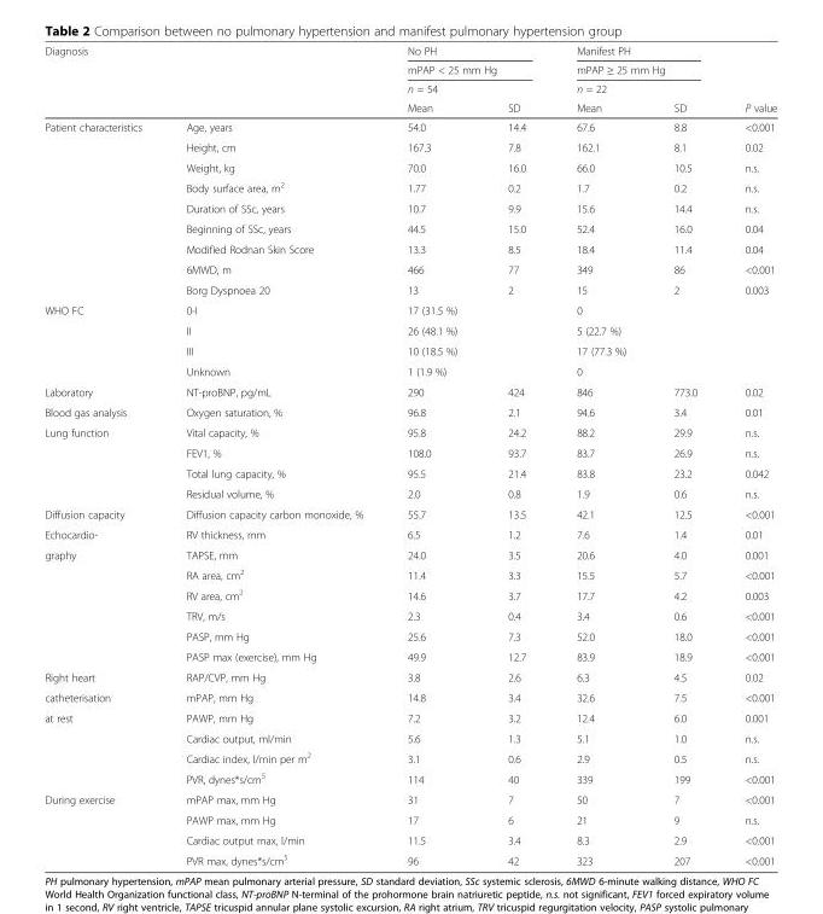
<table><thead><tr><td rowspan="4">Diagnosis</td><td rowspan="4"></td><td rowspan="2" colspan="2">No PH mPAP &lt; 25 mm Hg</td><td rowspan="2" colspan="2">Manifest PH mPAP ≥ 25 mm Hg</td><td rowspan="4">P value</td></tr><tr></tr><tr><td rowspan="2">n = 54 Mean</td><td rowspan="2">SD</td><td rowspan="2">n = 22 Mean</td><td rowspan="2">SD</td></tr><tr></tr></thead><tbody><tr><td rowspan="9">Patient characteristics</td><td>Age, years</td><td>54.0</td><td>14.4</td><td>67.6</td><td>8.8</td><td>&lt;0.001</td></tr><tr><td>Height, cm</td><td>167.3</td><td>7.8</td><td>162.1</td><td>8.1</td><td>0.02</td></tr><tr><td>Weight, kg</td><td>70.0</td><td>16.0</td><td>66.0</td><td>10.5</td><td>n.s.</td></tr><tr><td>Body surface area, m<sup>2</sup></td><td>1.77</td><td>0.2</td><td>1.7</td><td>0.2</td><td>n.s.</td></tr><tr><td>Duration of SSc, years</td><td>10.7</td><td>9.9</td><td>15.6</td><td>14.4</td><td>n.s.</td></tr><tr><td>Beginning of SSc, years</td><td>44.5</td><td>15.0</td><td>52.4</td><td>16.0</td><td>0.04</td></tr><tr><td>Modified Rodnan Skin Score</td><td>13.3</td><td>8.5</td><td>18.4</td><td>11.4</td><td>0.04</td></tr><tr><td>6MWD, m</td><td>466</td><td>77</td><td>349</td><td>86</td><td>&lt;0.001</td></tr><tr><td>Borg Dyspnoea 20</td><td>13</td><td>2</td><td>15</td><td>2</td><td>0.003</td></tr><tr><td rowspan="4">WHO FC</td><td>0-I</td><td>17 (31.5 %)</td><td></td><td>0</td><td rowspan="4"></td><td rowspan="4"></td></tr><tr><td>II</td><td>26 (48.1 %)</td><td></td><td>5 (22.7 %)</td></tr><tr><td>III</td><td>10 (18.5 %)</td><td></td><td>17 (77.3 %)</td></tr><tr><td>Unknown</td><td>1 (1.9 %)</td><td></td><td>0</td></tr><tr><td>Laboratory</td><td>NT-proBNP, pg/mL</td><td>290</td><td>424</td><td>846</td><td>773.0</td><td>0.02</td></tr><tr><td>Blood gas analysis</td><td>Oxygen saturation, %</td><td>96.8</td><td>2.1</td><td>94.6</td><td>3.4</td><td>0.01</td></tr><tr><td rowspan="4">Lung function</td><td>Vital capacity, %</td><td>95.8</td><td>24.2</td><td>88.2</td><td>29.9</td><td>n.s.</td></tr><tr><td>FEV1, %</td><td>108.0</td><td>93.7</td><td>83.7</td><td>26.9</td><td>n.s.</td></tr><tr><td>Total lung capacity, %</td><td>95.5</td><td>21.4</td><td>83.8</td><td>23.2</td><td>0.042</td></tr><tr><td>Residual volume, %</td><td>2.0</td><td>0.8</td><td>1.9</td><td>0.6</td><td>n.s.</td></tr><tr><td>Diffusion capacity</td><td>Diffusion capacity carbon monoxide, %</td><td>55.7</td><td>13.5</td><td>42.1</td><td>12.5</td><td>&lt;0.001</td></tr><tr><td>Echocardio-</td><td>RV thickness, mm</td><td>6.5</td><td>1.2</td><td>7.6</td><td>1.4</td><td>0.01</td></tr><tr><td rowspan="6">graphy</td><td>TAPSE, mm</td><td>24.0</td><td>3.5</td><td>20.6</td><td>4.0</td><td>0.001</td></tr><tr><td>RA area, cm<sup>2</sup></td><td>11.4</td><td>3.3</td><td>15.5</td><td>5.7</td><td>&lt;0.001</td></tr><tr><td>RV area, cm<sup>2</sup></td><td>14.6</td><td>3.7</td><td>17.7</td><td>4.2</td><td>0.003</td></tr><tr><td>TRV, m/s</td><td>2.3</td><td>0.4</td><td>3.4</td><td>0.6</td><td>&lt;0.001</td></tr><tr><td>PASP, mm Hg</td><td>25.6</td><td>7.3</td><td>52.0</td><td>18.0</td><td>&lt;0.001</td></tr><tr><td>PASP max (exercise), mm Hg</td><td>49.9</td><td>12.7</td><td>83.9</td><td>18.9</td><td>&lt;0.001</td></tr><tr><td>Right heart</td><td>RAP/CVP, mm Hg</td><td>3.8</td><td>2.6</td><td>6.3</td><td>4.5</td><td>0.02</td></tr><tr><td>catheterisation</td><td>mPAP, mm Hg</td><td>14.8</td><td>3.4</td><td>32.6</td><td>7.5</td><td>&lt;0.001</td></tr><tr><td rowspan="4">at rest</td><td>PAWP, mm Hg</td><td>7.2</td><td>3.2</td><td>12.4</td><td>6.0</td><td>0.001</td></tr><tr><td>Cardiac output, ml/min</td><td>5.6</td><td>1.3</td><td>5.1</td><td>1.0</td><td>n.s.</td></tr><tr><td>Cardiac index, l/min per m<sup>2</sup></td><td>3.1</td><td>0.6</td><td>2.9</td><td>0.5</td><td>n.s.</td></tr><tr><td>PVR, dynes*s/cm<sup>5</sup></td><td>114</td><td>40</td><td>339</td><td>199</td><td>&lt;0.001</td></tr><tr><td rowspan="4">During exercise</td><td>mPAP max, mm Hg</td><td>31</td><td>7</td><td>50</td><td>7</td><td>&lt;0.001</td></tr><tr><td>PAWP max, mm Hg</td><td>17</td><td>6</td><td>21</td><td>9</td><td>n.s.</td></tr><tr><td>Cardiac output max, l/min</td><td>11.5</td><td>3.4</td><td>8.3</td><td>2.9</td><td>&lt;0.001</td></tr><tr><td>PVR max, dynes*s/cm<sup>5</sup></td><td>96</td><td>42</td><td>323</td><td>207</td><td>&lt;0.001</td></tr></tbody></table>